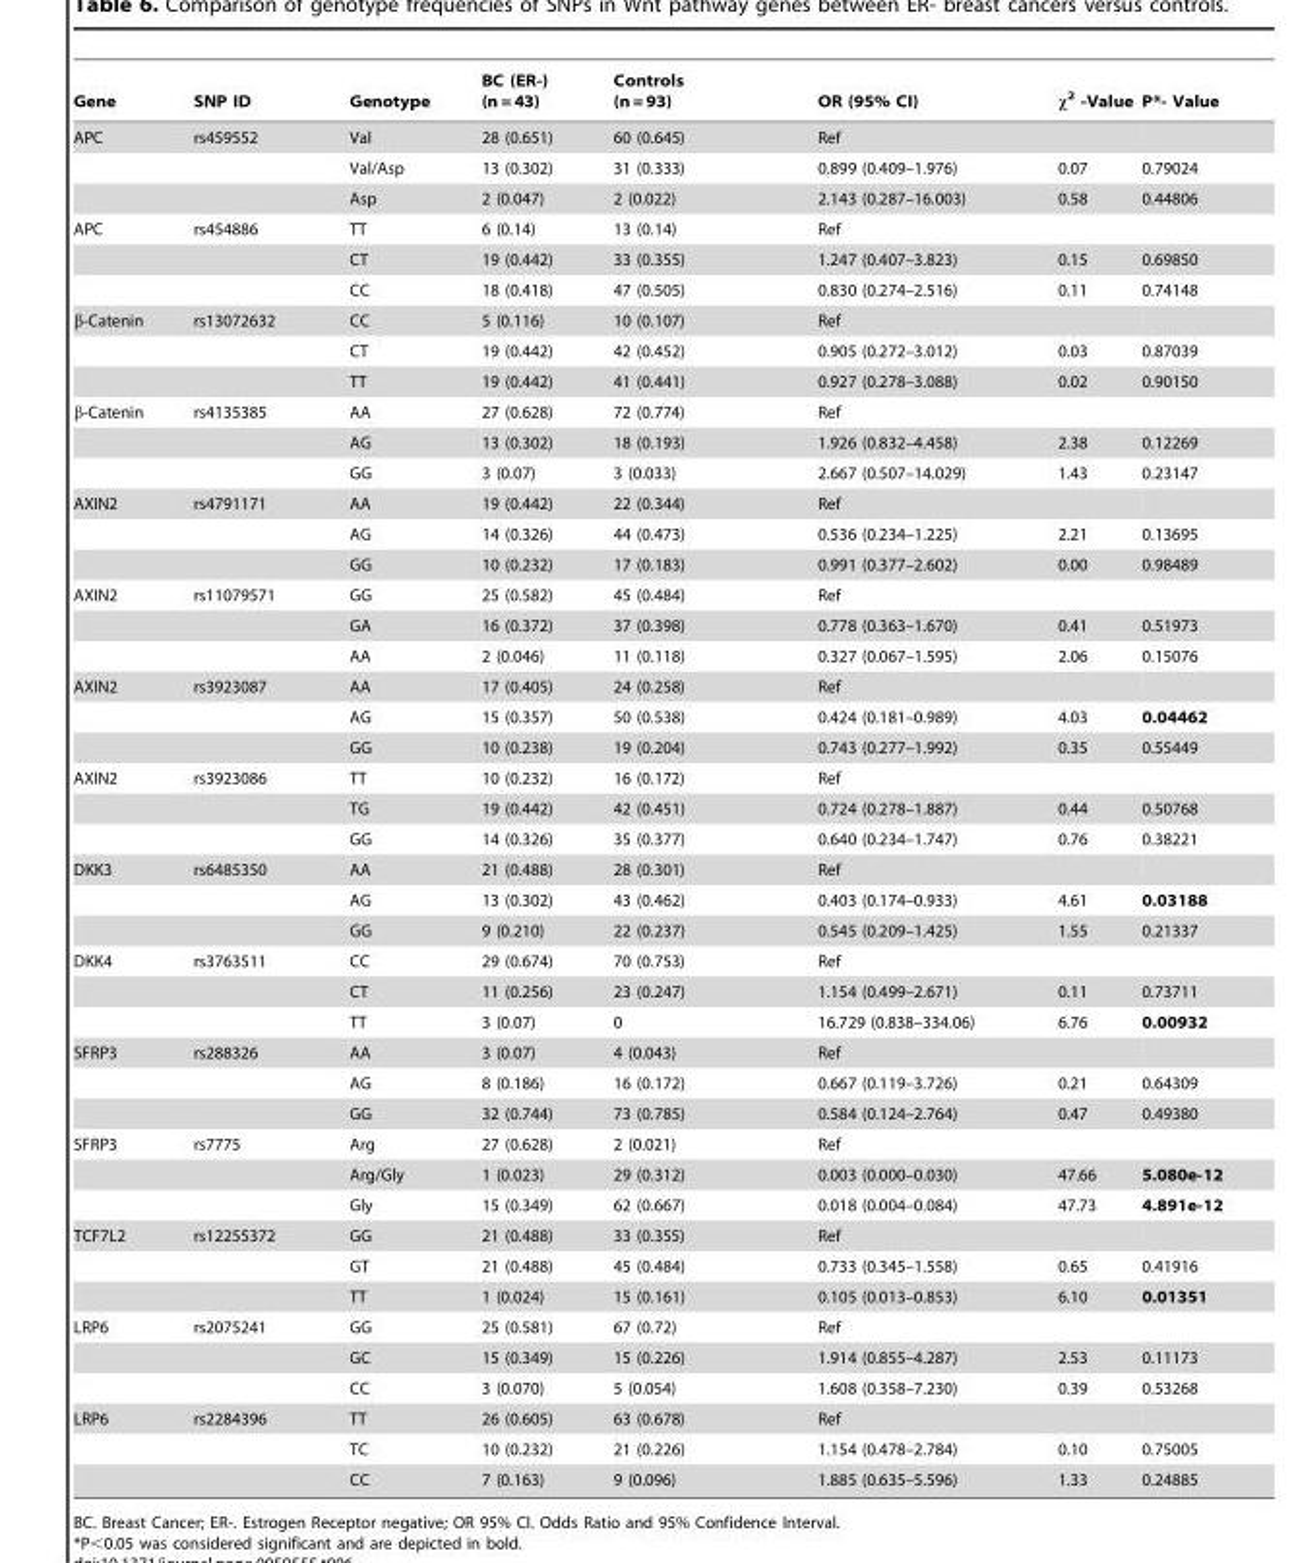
<table><thead><tr><td>Gene</td><td>SNP ID</td><td>Genotype</td><td>BC (ER-) (n = 43)</td><td>Controls (n = 93)</td><td>OR (95% CI)</td><td>χ<sup>2</sup> -Value</td><td>P*- Value</td></tr></thead><tbody><tr><td rowspan="3">APC</td><td>rs459552</td><td>Val</td><td>28 (0.651)</td><td>60 (0.645)</td><td>Ref</td><td></td><td></td></tr><tr><td></td><td>Val/Asp</td><td>13 (0.302)</td><td>31 (0.333)</td><td>0.899 (0.409–1.976)</td><td>0.07</td><td>0.79024</td></tr><tr><td></td><td>Asp</td><td>2 (0.047)</td><td>2 (0.022)</td><td>2.143 (0.287–16.003)</td><td>0.58</td><td>0.44806</td></tr><tr><td rowspan="3">APC</td><td>rs454886</td><td>TT</td><td>6 (0.14)</td><td>13 (0.14)</td><td>Ref</td><td></td><td></td></tr><tr><td></td><td>CT</td><td>19 (0.442)</td><td>33 (0.355)</td><td>1.247 (0.407–3.823)</td><td>0.15</td><td>0.69850</td></tr><tr><td></td><td>CC</td><td>18 (0.418)</td><td>47 (0.505)</td><td>0.830 (0.274–2.516)</td><td>0.11</td><td>0.74148</td></tr><tr><td rowspan="3">β-Catenin</td><td>rs13072632</td><td>CC</td><td>5 (0.116)</td><td>10 (0.107)</td><td>Ref</td><td></td><td></td></tr><tr><td></td><td>CT</td><td>19 (0.442)</td><td>42 (0.452)</td><td>0.905 (0.272–3.012)</td><td>0.03</td><td>0.87039</td></tr><tr><td></td><td>TT</td><td>19 (0.442)</td><td>41 (0.441)</td><td>0.927 (0.278–3.088)</td><td>0.02</td><td>0.90150</td></tr><tr><td rowspan="3">β-Catenin</td><td>rs4135385</td><td>AA</td><td>27 (0.628)</td><td>72 (0.774)</td><td>Ref</td><td></td><td></td></tr><tr><td></td><td>AG</td><td>13 (0.302)</td><td>18 (0.193)</td><td>1.926 (0.832–4.458)</td><td>2.38</td><td>0.12269</td></tr><tr><td></td><td>GG</td><td>3 (0.07)</td><td>3 (0.033)</td><td>2.667 (0.507–14.029)</td><td>1.43</td><td>0.23147</td></tr><tr><td rowspan="3">AXIN2</td><td>rs4791171</td><td>AA</td><td>19 (0.442)</td><td>22 (0.344)</td><td>Ref</td><td></td><td></td></tr><tr><td></td><td>AG</td><td>14 (0.326)</td><td>44 (0.473)</td><td>0.536 (0.234–1.225)</td><td>2.21</td><td>0.13695</td></tr><tr><td></td><td>GG</td><td>10 (0.232)</td><td>17 (0.183)</td><td>0.991 (0.377–2.602)</td><td>0.00</td><td>0.98489</td></tr><tr><td rowspan="3">AXIN2</td><td>rs11079571</td><td>GG</td><td>25 (0.582)</td><td>45 (0.484)</td><td>Ref</td><td></td><td></td></tr><tr><td></td><td>GA</td><td>16 (0.372)</td><td>37 (0.398)</td><td>0.778 (0.363–1.670)</td><td>0.41</td><td>0.51973</td></tr><tr><td></td><td>AA</td><td>2 (0.046)</td><td>11 (0.118)</td><td>0.327 (0.067–1.595)</td><td>2.06</td><td>0.15076</td></tr><tr><td rowspan="3">AXIN2</td><td>rs3923087</td><td>AA</td><td>17 (0.405)</td><td>24 (0.258)</td><td>Ref</td><td></td><td></td></tr><tr><td></td><td>AG</td><td>15 (0.357)</td><td>50 (0.538)</td><td>0.424 (0.181–0.989)</td><td>4.03</td><td>0.04462</td></tr><tr><td></td><td>GG</td><td>10 (0.238)</td><td>19 (0.204)</td><td>0.743 (0.277–1.992)</td><td>0.35</td><td>0.55449</td></tr><tr><td rowspan="3">AXIN2</td><td>rs3923086</td><td>TT</td><td>10 (0.232)</td><td>16 (0.172)</td><td>Ref</td><td></td><td></td></tr><tr><td></td><td>TG</td><td>19 (0.442)</td><td>42 (0.451)</td><td>0.724 (0.278–1.887)</td><td>0.44</td><td>0.50768</td></tr><tr><td></td><td>GG</td><td>14 (0.326)</td><td>35 (0.377)</td><td>0.640 (0.234–1.747)</td><td>0.76</td><td>0.38221</td></tr><tr><td rowspan="3">DKK3</td><td>rs6485350</td><td>AA</td><td>21 (0.488)</td><td>28 (0.301)</td><td>Ref</td><td></td><td></td></tr><tr><td></td><td>AG</td><td>13 (0.302)</td><td>43 (0.462)</td><td>0.403 (0.174–0.933)</td><td>4.61</td><td>0.03188</td></tr><tr><td></td><td>GG</td><td>9 (0.210)</td><td>22 (0.237)</td><td>0.545 (0.209–1.425)</td><td>1.55</td><td>0.21337</td></tr><tr><td rowspan="3">DKK4</td><td>rs3763511</td><td>CC</td><td>29 (0.674)</td><td>70 (0.753)</td><td>Ref</td><td></td><td></td></tr><tr><td></td><td>CT</td><td>11 (0.256)</td><td>23 (0.247)</td><td>1.154 (0.499–2.671)</td><td>0.11</td><td>0.73711</td></tr><tr><td></td><td>TT</td><td>3 (0.07)</td><td>0</td><td>16.729 (0.838–334.06)</td><td>6.76</td><td>0.00932</td></tr><tr><td rowspan="3">SFRP3</td><td>rs288326</td><td>AA</td><td>3 (0.07)</td><td>4 (0.043)</td><td>Ref</td><td></td><td></td></tr><tr><td></td><td>AG</td><td>8 (0.186)</td><td>16 (0.172)</td><td>0.667 (0.119–3.726)</td><td>0.21</td><td>0.64309</td></tr><tr><td></td><td>GG</td><td>32 (0.744)</td><td>73 (0.785)</td><td>0.584 (0.124–2.764)</td><td>0.47</td><td>0.49380</td></tr><tr><td rowspan="3">SFRP3</td><td>rs7775</td><td>Arg</td><td>27 (0.628)</td><td>2 (0.021)</td><td>Ref</td><td></td><td></td></tr><tr><td></td><td>Arg/Gly</td><td>1 (0.023)</td><td>29 (0.312)</td><td>0.003 (0.000–0.030)</td><td>47.66</td><td>5.080e-12</td></tr><tr><td></td><td>Gly</td><td>15 (0.349)</td><td>62 (0.667)</td><td>0.018 (0.004–0.084)</td><td>47.73</td><td>4.891e-12</td></tr><tr><td rowspan="3">TCF7L2</td><td>rs12255372</td><td>GG</td><td>21 (0.488)</td><td>33 (0.355)</td><td>Ref</td><td></td><td></td></tr><tr><td></td><td>GT</td><td>21 (0.488)</td><td>45 (0.484)</td><td>0.733 (0.345–1.558)</td><td>0.65</td><td>0.41916</td></tr><tr><td></td><td>TT</td><td>1 (0.024)</td><td>15 (0.161)</td><td>0.105 (0.013–0.853)</td><td>6.10</td><td>0.01351</td></tr><tr><td rowspan="3">LRP6</td><td>rs2075241</td><td>GG</td><td>25 (0.581)</td><td>67 (0.72)</td><td>Ref</td><td></td><td></td></tr><tr><td></td><td>GC</td><td>15 (0.349)</td><td>15 (0.226)</td><td>1.914 (0.855–4.287)</td><td>2.53</td><td>0.11173</td></tr><tr><td></td><td>CC</td><td>3 (0.070)</td><td>5 (0.054)</td><td>1.608 (0.358–7.230)</td><td>0.39</td><td>0.53268</td></tr><tr><td rowspan="3">LRP6</td><td>rs2284396</td><td>TT</td><td>26 (0.605)</td><td>63 (0.678)</td><td>Ref</td><td></td><td></td></tr><tr><td></td><td>TC</td><td>10 (0.232)</td><td>21 (0.226)</td><td>1.154 (0.478–2.784)</td><td>0.10</td><td>0.75005</td></tr><tr><td></td><td>CC</td><td>7 (0.163)</td><td>9 (0.096)</td><td>1.885 (0.635–5.596)</td><td>1.33</td><td>0.24885</td></tr></tbody></table>